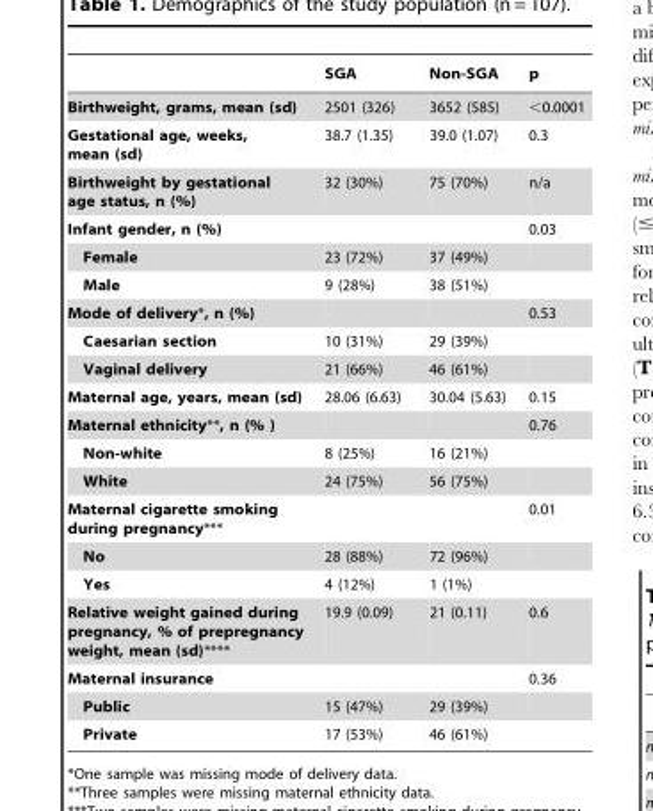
<table><thead><tr><td></td><td>SGA</td><td>Non-SGA</td><td>p</td></tr></thead><tbody><tr><td>Birthweight, grams, mean (sd)</td><td>2501 (326)</td><td>3652 (585)</td><td>&lt;0.0001</td></tr><tr><td>Gestational age, weeks, mean (sd)</td><td>38.7 (1.35)</td><td>39.0 (1.07)</td><td>0.3</td></tr><tr><td>Birthweight by gestational age status, n (%)</td><td>32 (30%)</td><td>75 (70%)</td><td>n/a</td></tr><tr><td>Infant gender, n (%)</td><td></td><td></td><td>0.03</td></tr><tr><td>Female</td><td>23 (72%)</td><td>37 (49%)</td><td></td></tr><tr><td>Male</td><td>9 (28%)</td><td>38 (51%)</td><td></td></tr><tr><td>Mode of delivery*, n (%)</td><td></td><td></td><td>0.53</td></tr><tr><td>Caesarian section</td><td>10 (31%)</td><td>29 (39%)</td><td></td></tr><tr><td>Vaginal delivery</td><td>21 (66%)</td><td>46 (61%)</td><td></td></tr><tr><td>Maternal age, years, mean (sd)</td><td>28.06 (6.63)</td><td>30.04 (5.63)</td><td>0.15</td></tr><tr><td>Maternal ethnicity**, n (% )</td><td></td><td></td><td>0.76</td></tr><tr><td>Non-white</td><td>8 (25%)</td><td>16 (21%)</td><td></td></tr><tr><td>White</td><td>24 (75%)</td><td>56 (75%)</td><td></td></tr><tr><td>Maternal cigarette smoking during pregnancy***</td><td></td><td></td><td>0.01</td></tr><tr><td>No</td><td>28 (88%)</td><td>72 (96%)</td><td></td></tr><tr><td>Yes</td><td>4 (12%)</td><td>1 (1%)</td><td></td></tr><tr><td>Relative weight gained during pregnancy, % of prepregnancy weight, mean (sd)****</td><td>19.9 (0.09)</td><td>21 (0.11)</td><td>0.6</td></tr><tr><td>Maternal insurance</td><td></td><td></td><td>0.36</td></tr><tr><td>Public</td><td>15 (47%)</td><td>29 (39%)</td><td></td></tr><tr><td>Private</td><td>17 (53%)</td><td>46 (61%)</td><td></td></tr></tbody></table>